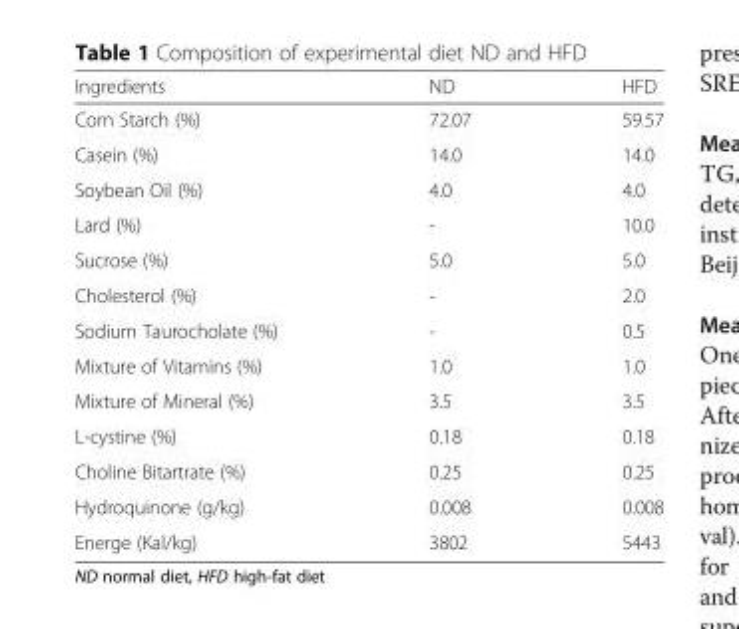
<table><thead><tr><td>Ingredients</td><td>ND</td><td>HFD</td></tr></thead><tbody><tr><td>Corn Starch (%)</td><td>72.07</td><td>59.57</td></tr><tr><td>Casein (%)</td><td>14.0</td><td>14.0</td></tr><tr><td>Soybean Oil (%)</td><td>4.0</td><td>4.0</td></tr><tr><td>Lard (%)</td><td>-</td><td>10.0</td></tr><tr><td>Sucrose (%)</td><td>5.0</td><td>5.0</td></tr><tr><td>Cholesterol (%)</td><td>-</td><td>2.0</td></tr><tr><td>Sodium Taurocholate (%)</td><td>-</td><td>0.5</td></tr><tr><td>Mixture of Vitamins (%)</td><td>1.0</td><td>1.0</td></tr><tr><td>Mixture of Mineral (%)</td><td>3.5</td><td>3.5</td></tr><tr><td>L-cystine (%)</td><td>0.18</td><td>0.18</td></tr><tr><td>Choline Bitartrate (%)</td><td>0.25</td><td>0.25</td></tr><tr><td>Hydroquinone (g/kg)</td><td>0.008</td><td>0.008</td></tr><tr><td>Energe (Kal/kg)</td><td>3802</td><td>5443</td></tr></tbody></table>